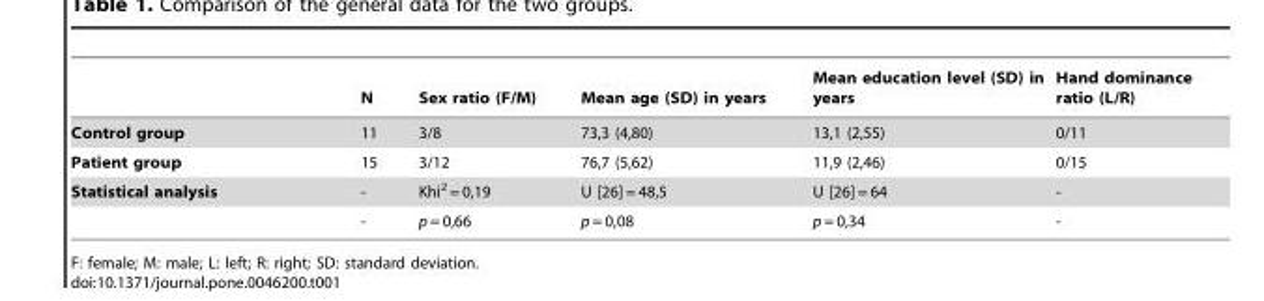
<table><thead><tr><td></td><td>N</td><td>Sex ratio (F/M)</td><td>Mean age (SD) in years</td><td>Mean education level (SD) in years</td><td>Hand dominance ratio (L/R)</td></tr></thead><tbody><tr><td>Control group</td><td>11</td><td>3/8</td><td>73,3 (4,80)</td><td>13,1 (2,55)</td><td>0/11</td></tr><tr><td>Patient group</td><td>15</td><td>3/12</td><td>76,7 (5,62)</td><td>11,9 (2,46)</td><td>0/15</td></tr><tr><td rowspan="2">Statistical analysis</td><td>-</td><td>Khi<sup>2</sup> = 0,19</td><td>U [26] = 48,5</td><td>U [26] = 64</td><td>-</td></tr><tr><td>-</td><td>p = 0,66</td><td>p = 0,08</td><td>p = 0,34</td><td>-</td></tr></tbody></table>